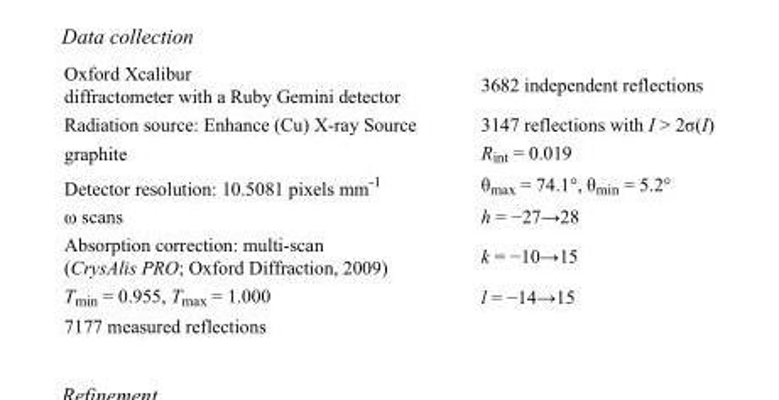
<table><tbody><tr><td>Oxford Xcalibur diffractometer with a Ruby Gemini detector</td><td>3682 independent reflections</td></tr><tr><td>Radiation source: Enhance (Cu) X-ray Source</td><td>3147 reflections with I &gt; 2σ(I)</td></tr><tr><td>graphite</td><td>R<sub>int</sub> = 0.019</td></tr><tr><td>Detector resolution: 10.5081 pixels mm<sup>-1</sup></td><td>θ<sub>max</sub> = 74.1°, θ<sub>min</sub> = 5.2°</td></tr><tr><td>ω scans</td><td>h = −27→28</td></tr><tr><td>Absorption correction: multi-scan (CrysAlis PRO; Oxford Diffraction, 2009)</td><td>k = −10→15</td></tr><tr><td>T<sub>min</sub> = 0.955, T<sub>max</sub> = 1.000</td><td>l = −14→15</td></tr><tr><td>7177 measured reflections</td><td></td></tr></tbody></table>